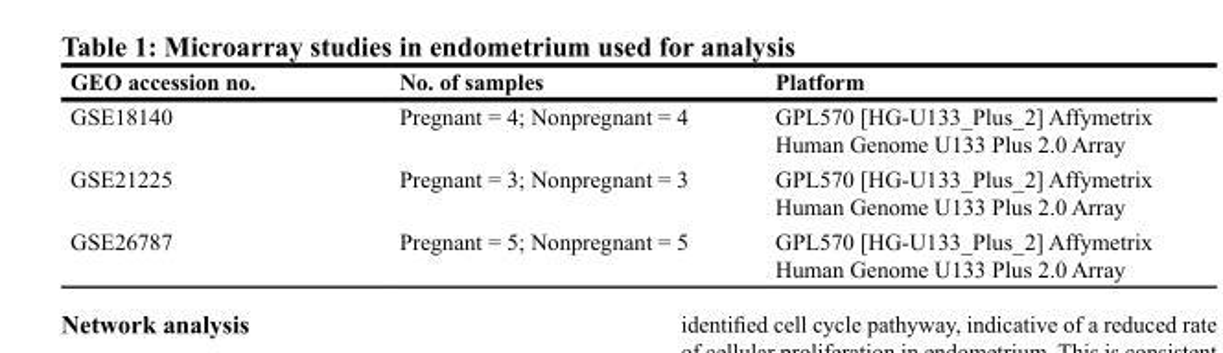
<table><thead><tr><td>GEO accession no.</td><td>No. of samples</td><td>Platform</td></tr></thead><tbody><tr><td>GSE18140</td><td>Pregnant = 4; Nonpregnant = 4</td><td>GPL570 [HG-U133_Plus_2] Affymetrix Human Genome U133 Plus 2.0 Array</td></tr><tr><td>GSE21225</td><td>Pregnant = 3; Nonpregnant = 3</td><td>GPL570 [HG-U133_Plus_2] Affymetrix Human Genome U133 Plus 2.0 Array</td></tr><tr><td>GSE26787</td><td>Pregnant = 5; Nonpregnant = 5</td><td>GPL570 [HG-U133_Plus_2] Affymetrix Human Genome U133 Plus 2.0 Array</td></tr></tbody></table>